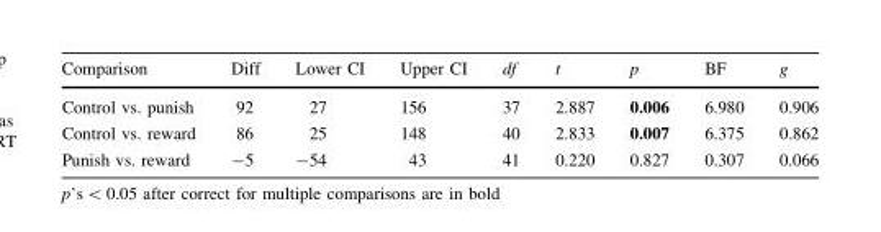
<table><thead><tr><td>Comparison</td><td>Diff</td><td>Lower CI</td><td>Upper CI</td><td>df</td><td>t</td><td>p</td><td>BF</td><td>g</td></tr></thead><tbody><tr><td>Control vs. punish</td><td>92</td><td>27</td><td>156</td><td>37</td><td>2.887</td><td>0.006</td><td>6.980</td><td>0.906</td></tr><tr><td>Control vs. reward</td><td>86</td><td>25</td><td>148</td><td>40</td><td>2.833</td><td>0.007</td><td>6.375</td><td>0.862</td></tr><tr><td>Punish vs. reward</td><td>-5</td><td>-54</td><td>43</td><td>41</td><td>0.220</td><td>0.827</td><td>0.307</td><td>0.066</td></tr></tbody></table>